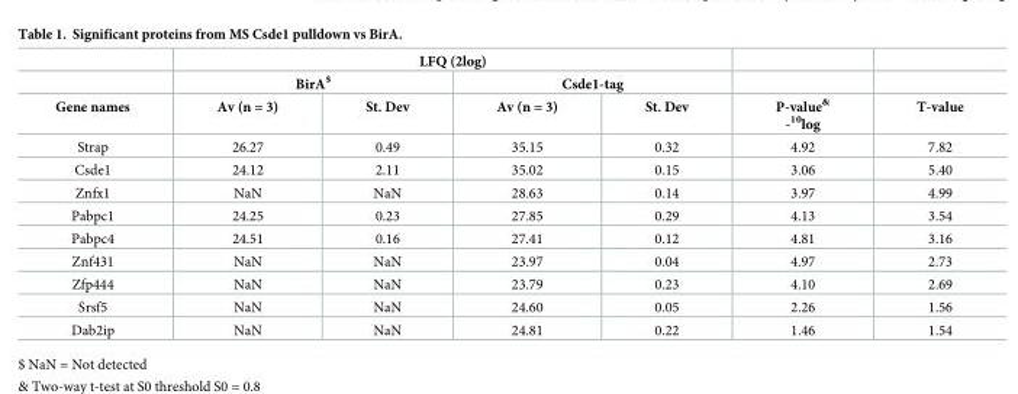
<table><thead><tr><td rowspan="3">Gene names</td><td colspan="4">LFQ (2log)</td><td rowspan="3">P-value<sup>&amp;</sup> -<sup>10</sup>log</td><td rowspan="3">T-value</td></tr><tr><td colspan="2">BirA<sup>$</sup></td><td colspan="2">Csde1-tag</td></tr><tr><td>Av (n = 3)</td><td>St. Dev</td><td>Av (n = 3)</td><td>St. Dev</td></tr></thead><tbody><tr><td>Strap</td><td>26.27</td><td>0.49</td><td>35.15</td><td>0.32</td><td>4.92</td><td>7.82</td></tr><tr><td>Csde1</td><td>24.12</td><td>2.11</td><td>35.02</td><td>0.15</td><td>3.06</td><td>5.40</td></tr><tr><td>Znfx1</td><td>NaN</td><td>NaN</td><td>28.63</td><td>0.14</td><td>3.97</td><td>4.99</td></tr><tr><td>Pabpc1</td><td>24.25</td><td>0.23</td><td>27.85</td><td>0.29</td><td>4.13</td><td>3.54</td></tr><tr><td>Pabpc4</td><td>24.51</td><td>0.16</td><td>27.41</td><td>0.12</td><td>4.81</td><td>3.16</td></tr><tr><td>Znf431</td><td>NaN</td><td>NaN</td><td>23.97</td><td>0.04</td><td>4.97</td><td>2.73</td></tr><tr><td>Zfp444</td><td>NaN</td><td>NaN</td><td>23.79</td><td>0.23</td><td>4.10</td><td>2.69</td></tr><tr><td>Srsf5</td><td>NaN</td><td>NaN</td><td>24.60</td><td>0.05</td><td>2.26</td><td>1.56</td></tr><tr><td>Dab2ip</td><td>NaN</td><td>NaN</td><td>24.81</td><td>0.22</td><td>1.46</td><td>1.54</td></tr></tbody></table>